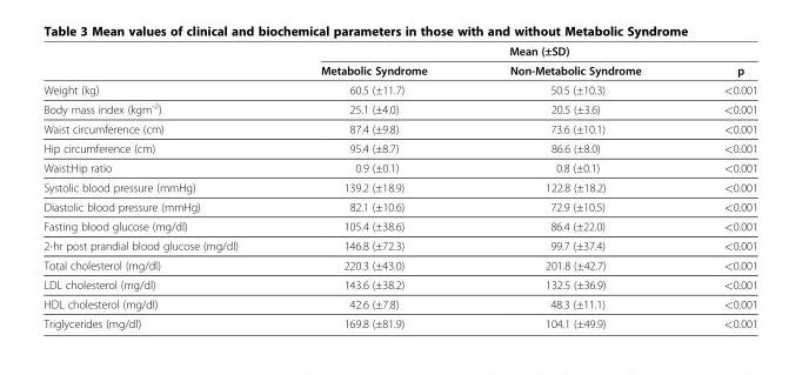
<table><thead><tr><td rowspan="2"></td><td colspan="3">Mean (±SD)</td></tr><tr><td>Metabolic Syndrome</td><td>Non-Metabolic Syndrome</td><td>p</td></tr></thead><tbody><tr><td>Weight (kg)</td><td>60.5 (±11.7)</td><td>50.5 (±10.3)</td><td>&lt;0.001</td></tr><tr><td>Body mass index (kgm<sup>-2</sup>)</td><td>25.1 (±4.0)</td><td>20.5 (±3.6)</td><td>&lt;0.001</td></tr><tr><td>Waist circumference (cm)</td><td>87.4 (±9.8)</td><td>73.6 (±10.1)</td><td>&lt;0.001</td></tr><tr><td>Hip circumference (cm)</td><td>95.4 (±8.7)</td><td>86.6 (±8.0)</td><td>&lt;0.001</td></tr><tr><td>Waist:Hip ratio</td><td>0.9 (±0.1)</td><td>0.8 (±0.1)</td><td>&lt;0.001</td></tr><tr><td>Systolic blood pressure (mmHg)</td><td>139.2 (±18.9)</td><td>122.8 (±18.2)</td><td>&lt;0.001</td></tr><tr><td>Diastolic blood pressure (mmHg)</td><td>82.1 (±10.6)</td><td>72.9 (±10.5)</td><td>&lt;0.001</td></tr><tr><td>Fasting blood glucose (mg/dl)</td><td>105.4 (±38.6)</td><td>86.4 (±22.0)</td><td>&lt;0.001</td></tr><tr><td>2-hr post prandial blood glucose (mg/dl)</td><td>146.8 (±72.3)</td><td>99.7 (±37.4)</td><td>&lt;0.001</td></tr><tr><td>Total cholesterol (mg/dl)</td><td>220.3 (±43.0)</td><td>201.8 (±42.7)</td><td>&lt;0.001</td></tr><tr><td>LDL cholesterol (mg/dl)</td><td>143.6 (±38.2)</td><td>132.5 (±36.9)</td><td>&lt;0.001</td></tr><tr><td>HDL cholesterol (mg/dl)</td><td>42.6 (±7.8)</td><td>48.3 (±11.1)</td><td>&lt;0.001</td></tr><tr><td>Triglycerides (mg/dl)</td><td>169.8 (±81.9)</td><td>104.1 (±49.9)</td><td>&lt;0.001</td></tr></tbody></table>